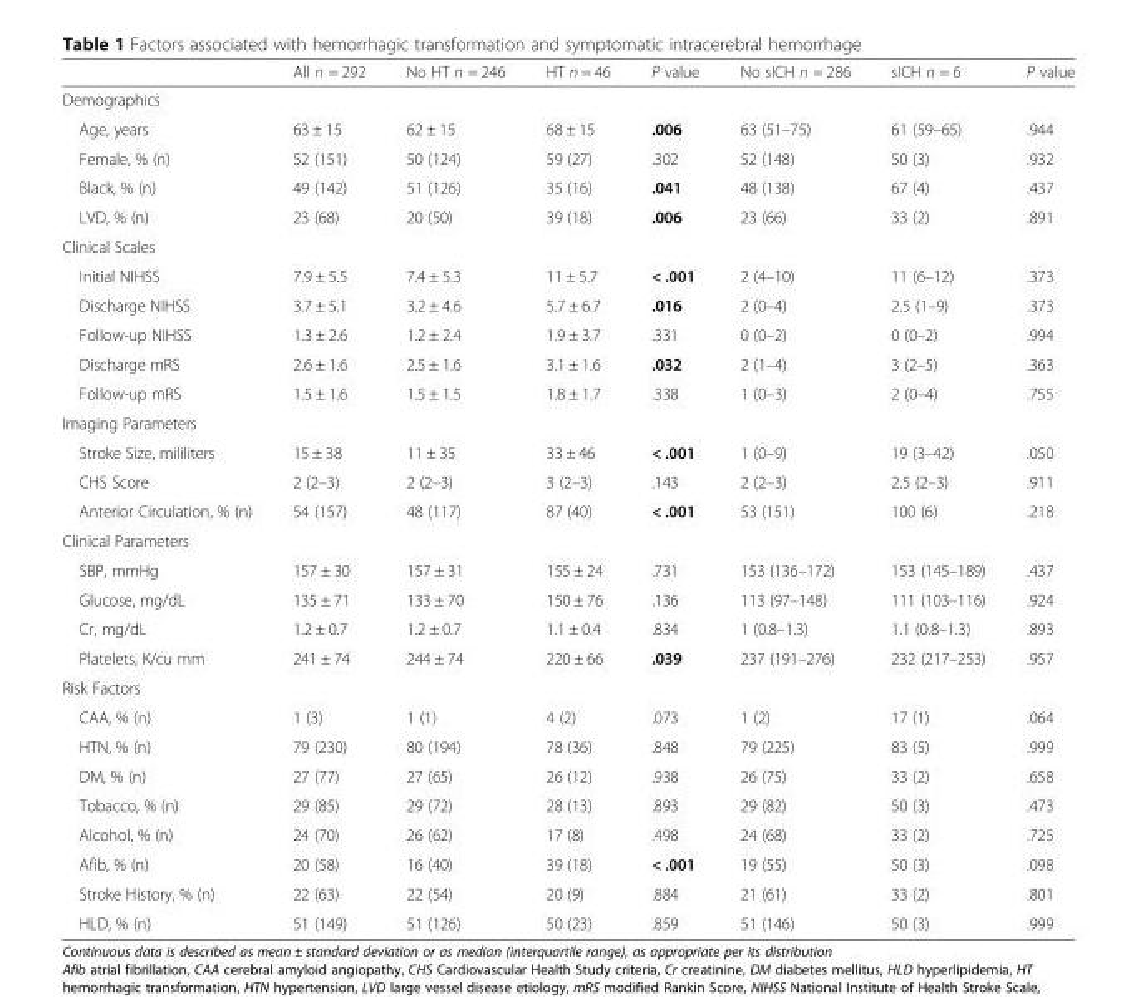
<table><thead><tr><td></td><td>All n = 292</td><td>No HT n = 246</td><td>HT n = 46</td><td>P value</td><td>No sICH n = 286</td><td>sICH n = 6</td><td>P value</td></tr></thead><tbody><tr><td colspan="8">Demographics</td></tr><tr><td>Age, years</td><td>63 ± 15</td><td>62 ± 15</td><td>68 ± 15</td><td>.006</td><td>63 (51–75)</td><td>61 (59–65)</td><td>.944</td></tr><tr><td>Female, % (n)</td><td>52 (151)</td><td>50 (124)</td><td>59 (27)</td><td>.302</td><td>52 (148)</td><td>50 (3)</td><td>.932</td></tr><tr><td>Black, % (n)</td><td>49 (142)</td><td>51 (126)</td><td>35 (16)</td><td>.041</td><td>48 (138)</td><td>67 (4)</td><td>.437</td></tr><tr><td>LVD, % (n)</td><td>23 (68)</td><td>20 (50)</td><td>39 (18)</td><td>.006</td><td>23 (66)</td><td>33 (2)</td><td>.891</td></tr><tr><td colspan="8">Clinical Scales</td></tr><tr><td>Initial NIHSS</td><td>7.9 ± 5.5</td><td>7.4 ± 5.3</td><td>11 ± 5.7</td><td>&lt; .001</td><td>2 (4–10)</td><td>11 (6–12)</td><td>.373</td></tr><tr><td>Discharge NIHSS</td><td>3.7 ± 5.1</td><td>3.2 ± 4.6</td><td>5.7 ± 6.7</td><td>.016</td><td>2 (0–4)</td><td>2.5 (1–9)</td><td>.373</td></tr><tr><td>Follow-up NIHSS</td><td>1.3 ± 2.6</td><td>1.2 ± 2.4</td><td>1.9 ± 3.7</td><td>.331</td><td>0 (0–2)</td><td>0 (0–2)</td><td>.994</td></tr><tr><td>Discharge mRS</td><td>2.6 ± 1.6</td><td>2.5 ± 1.6</td><td>3.1 ± 1.6</td><td>.032</td><td>2 (1–4)</td><td>3 (2–5)</td><td>.363</td></tr><tr><td>Follow-up mRS</td><td>1.5 ± 1.6</td><td>1.5 ± 1.5</td><td>1.8 ± 1.7</td><td>.338</td><td>1 (0–3)</td><td>2 (0–4)</td><td>.755</td></tr><tr><td colspan="8">Imaging Parameters</td></tr><tr><td>Stroke Size, mililiters</td><td>15 ± 38</td><td>11 ± 35</td><td>33 ± 46</td><td>&lt; .001</td><td>1 (0–9)</td><td>19 (3–42)</td><td>.050</td></tr><tr><td>CHS Score</td><td>2 (2–3)</td><td>2 (2–3)</td><td>3 (2–3)</td><td>.143</td><td>2 (2–3)</td><td>2.5 (2–3)</td><td>.911</td></tr><tr><td>Anterior Circulation, % (n)</td><td>54 (157)</td><td>48 (117)</td><td>87 (40)</td><td>&lt; .001</td><td>53 (151)</td><td>100 (6)</td><td>.218</td></tr><tr><td colspan="8">Clinical Parameters</td></tr><tr><td>SBP, mmHg</td><td>157 ± 30</td><td>157 ± 31</td><td>155 ± 24</td><td>.731</td><td>153 (136–172)</td><td>153 (145–189)</td><td>.437</td></tr><tr><td>Glucose, mg/dL</td><td>135 ± 71</td><td>133 ± 70</td><td>150 ± 76</td><td>.136</td><td>113 (97–148)</td><td>111 (103–116)</td><td>.924</td></tr><tr><td>Cr, mg/dL</td><td>1.2 ± 0.7</td><td>1.2 ± 0.7</td><td>1.1 ± 0.4</td><td>.834</td><td>1 (0.8–1.3)</td><td>1.1 (0.8–1.3)</td><td>.893</td></tr><tr><td>Platelets, K/cu mm</td><td>241 ± 74</td><td>244 ± 74</td><td>220 ± 66</td><td>.039</td><td>237 (191–276)</td><td>232 (217–253)</td><td>.957</td></tr><tr><td colspan="8">Risk Factors</td></tr><tr><td>CAA, % (n)</td><td>1 (3)</td><td>1 (1)</td><td>4 (2)</td><td>.073</td><td>1 (2)</td><td>17 (1)</td><td>.064</td></tr><tr><td>HTN, % (n)</td><td>79 (230)</td><td>80 (194)</td><td>78 (36)</td><td>.848</td><td>79 (225)</td><td>83 (5)</td><td>.999</td></tr><tr><td>DM, % (n)</td><td>27 (77)</td><td>27 (65)</td><td>26 (12)</td><td>.938</td><td>26 (75)</td><td>33 (2)</td><td>.658</td></tr><tr><td>Tobacco, % (n)</td><td>29 (85)</td><td>29 (72)</td><td>28 (13)</td><td>.893</td><td>29 (82)</td><td>50 (3)</td><td>.473</td></tr><tr><td>Alcohol, % (n)</td><td>24 (70)</td><td>26 (62)</td><td>17 (8)</td><td>.498</td><td>24 (68)</td><td>33 (2)</td><td>.725</td></tr><tr><td>Afib, % (n)</td><td>20 (58)</td><td>16 (40)</td><td>39 (18)</td><td>&lt; .001</td><td>19 (55)</td><td>50 (3)</td><td>.098</td></tr><tr><td>Stroke History, % (n)</td><td>22 (63)</td><td>22 (54)</td><td>20 (9)</td><td>.884</td><td>21 (61)</td><td>33 (2)</td><td>.801</td></tr><tr><td>HLD, % (n)</td><td>51 (149)</td><td>51 (126)</td><td>50 (23)</td><td>.859</td><td>51 (146)</td><td>50 (3)</td><td>.999</td></tr></tbody></table>